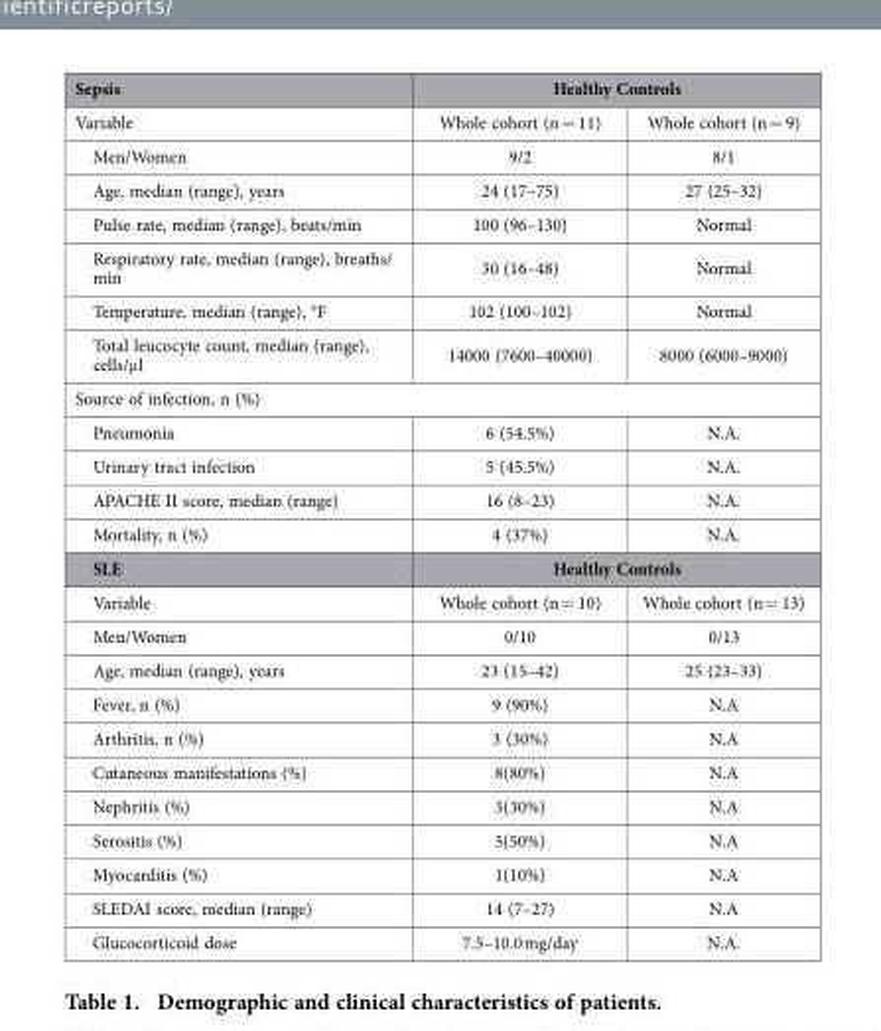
<table><thead><tr><td rowspan="2">Sepsis Variable</td><td colspan="2">Healthy Controls</td></tr><tr><td>Whole cohort (n = 11)</td><td>Whole cohort (n = 9)</td></tr></thead><tbody><tr><td>Men/Women</td><td>9/2</td><td>8/1</td></tr><tr><td>Age, median (range), years</td><td>24 (17–75)</td><td>27 (25–32)</td></tr><tr><td>Pulse rate, median (range), beats/min</td><td>100 (96–130)</td><td>Normal</td></tr><tr><td>Respiratory rate, median (range), breaths/ min</td><td>30 (16–48)</td><td>Normal</td></tr><tr><td>Temperature, median (range), °F</td><td>102 (100–102)</td><td>Normal</td></tr><tr><td>Total leucocyte count, median (range), cells/μ l</td><td>14000 (7600–40000)</td><td>8000 (6000–9000)</td></tr><tr><td colspan="3">Source of infection, n (%)</td></tr><tr><td>Pneumonia</td><td>6 (54.5%)</td><td>N.A.</td></tr><tr><td>Urinary tract infection</td><td>5 (45.5%)</td><td>N.A.</td></tr><tr><td>APACHE II score, median (range)</td><td>16 (8–23)</td><td>N.A.</td></tr><tr><td>Mortality, n (%)</td><td>4 (37%)</td><td>N.A.</td></tr><tr><td>SLE</td><td colspan="2">Healthy Controls</td></tr><tr><td>Variable</td><td>Whole cohort (n = 10)</td><td>Whole cohort (n = 13)</td></tr><tr><td>Men/Women</td><td>0/10</td><td>0/13</td></tr><tr><td>Age, median (range), years</td><td>23 (15–42)</td><td>25 (23–33)</td></tr><tr><td>Fever, n (%)</td><td>9 (90%)</td><td>N.A</td></tr><tr><td>Arthritis, n (%)</td><td>3 (30%)</td><td>N.A</td></tr><tr><td>Cutaneous manifestations (%)</td><td>8(80%)</td><td>N.A</td></tr><tr><td>Nephritis (%)</td><td>3(30%)</td><td>N.A</td></tr><tr><td>Serositis (%)</td><td>5(50%)</td><td>N.A</td></tr><tr><td>Myocarditis (%)</td><td>1(10%)</td><td>N.A</td></tr><tr><td>SLEDAI score, median (range)</td><td>14 (7–27)</td><td>N.A</td></tr><tr><td>Glucocorticoid dose</td><td>7.5–10.0 mg/day</td><td>N.A.</td></tr></tbody></table>